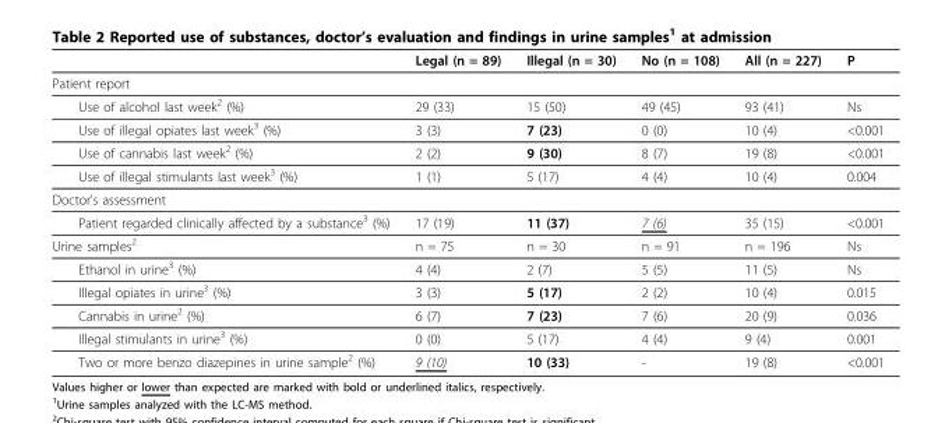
<table><thead><tr><td></td><td>Legal (n = 89)</td><td>Illegal (n = 30)</td><td>No (n = 108)</td><td>All (n = 227)</td><td>P</td></tr></thead><tbody><tr><td colspan="6">Patient report</td></tr><tr><td>Use of alcohol last week<sup>2</sup> (%)</td><td>29 (33)</td><td>15 (50)</td><td>49 (45)</td><td>93 (41)</td><td>Ns</td></tr><tr><td>Use of illegal opiates last week<sup>3</sup> (%)</td><td>3 (3)</td><td>7 (23)</td><td>0 (0)</td><td>10 (4)</td><td>&lt;0.001</td></tr><tr><td>Use of cannabis last week<sup>2</sup> (%)</td><td>2 (2)</td><td>9 (30)</td><td>8 (7)</td><td>19 (8)</td><td>&lt;0.001</td></tr><tr><td>Use of illegal stimulants last week<sup>3</sup> (%)</td><td>1 (1)</td><td>5 (17)</td><td>4 (4)</td><td>10 (4)</td><td>0.004</td></tr><tr><td colspan="6">Doctor’s assessment</td></tr><tr><td>Patient regarded clinically affected by a substance<sup>3</sup> (%)</td><td>17 (19)</td><td>11 (37)</td><td>7 (6)</td><td>35 (15)</td><td>&lt;0.001</td></tr><tr><td>Urine samples<sup>2</sup></td><td>n = 75</td><td>n = 30</td><td>n = 91</td><td>n = 196</td><td>Ns</td></tr><tr><td>Ethanol in urine<sup>3</sup> (%)</td><td>4 (4)</td><td>2 (7)</td><td>5 (5)</td><td>11 (5)</td><td>Ns</td></tr><tr><td>Illegal opiates in urine<sup>3</sup> (%)</td><td>3 (3)</td><td>5 (17)</td><td>2 (2)</td><td>10 (4)</td><td>0.015</td></tr><tr><td>Cannabis in urine<sup>2</sup> (%)</td><td>6 (7)</td><td>7 (23)</td><td>7 (6)</td><td>20 (9)</td><td>0.036</td></tr><tr><td>Illegal stimulants in urine<sup>3</sup> (%)</td><td>0 (0)</td><td>5 (17)</td><td>4 (4)</td><td>9 (4)</td><td>0.001</td></tr><tr><td>Two or more benzo diazepines in urine sample<sup>2</sup> (%)</td><td>9 (10)</td><td>10 (33)</td><td>-</td><td>19 (8)</td><td>&lt;0.001</td></tr></tbody></table>